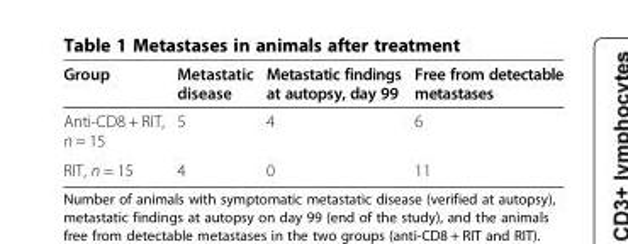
<table><thead><tr><td>Group</td><td>Metastatic disease</td><td>Metastatic findings at autopsy, day 99</td><td>Free from detectable metastases</td></tr></thead><tbody><tr><td>Anti-CD8 + RIT, n = 15</td><td>5</td><td>4</td><td>6</td></tr><tr><td>RIT, n = 15</td><td>4</td><td>0</td><td>11</td></tr></tbody></table>